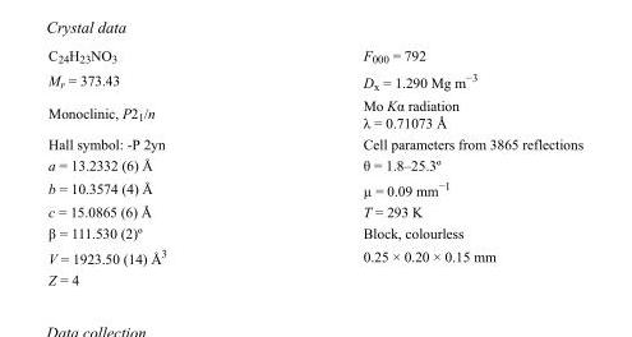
<table><tbody><tr><td>C<sub>24</sub>H<sub>23</sub>NO<sub>3</sub></td><td>F000 = 792</td></tr><tr><td>M<sub>r</sub> = 373.43</td><td>D<sub>x</sub> = 1.290 Mg m<sup>−3</sup></td></tr><tr><td>Monoclinic, P2<sub>1</sub>/n</td><td>Mo Kα radiation λ = 0.71073 Å</td></tr><tr><td>Hall symbol: -P 2yn</td><td>Cell parameters from 3865 reflections</td></tr><tr><td>a = 13.2332 (6) Å</td><td>θ = 1.8–25.3º</td></tr><tr><td>b = 10.3574 (4) Å</td><td>µ = 0.09 mm<sup>−1</sup></td></tr><tr><td>c = 15.0865 (6) Å</td><td>T = 293 K</td></tr><tr><td>β = 111.530 (2)º</td><td>Block, colourless</td></tr><tr><td>V = 1923.50 (14) Å<sup>3</sup></td><td>0.25 × 0.20 × 0.15 mm</td></tr><tr><td>Z = 4</td><td></td></tr></tbody></table>